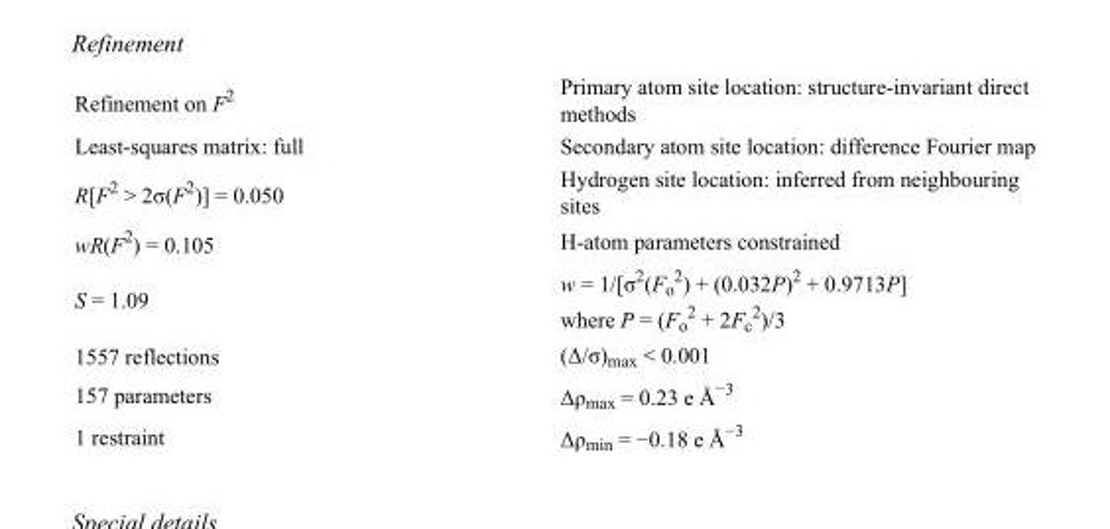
<table><tbody><tr><td>Refinement on F<sup>2</sup></td><td>Primary atom site location: structure-invariant direct methods</td></tr><tr><td>Least-squares matrix: full</td><td>Secondary atom site location: difference Fourier map</td></tr><tr><td>R[F<sup>2</sup> &gt; 2σ(F<sup>2</sup>)] = 0.050</td><td>Hydrogen site location: inferred from neighbouring sites</td></tr><tr><td>wR(F<sup>2</sup>) = 0.105</td><td>H-atom parameters constrained</td></tr><tr><td>S = 1.09</td><td>w = 1/[σ<sup>2</sup>(F<sub>o</sub> <sup>2</sup>) + (0.032P)<sup>2</sup> + 0.9713P] where P = (F<sub>o</sub> <sup>2</sup> + 2F<sub>c</sub> <sup>2</sup>)/3</td></tr><tr><td>1557 reflections</td><td>(Δ/σ)<sub>max</sub> &lt; 0.001</td></tr><tr><td>157 parameters</td><td>Δρ<sub>max</sub> = 0.23 e Å<sup>−3</sup></td></tr><tr><td>1 restraint</td><td>Δρ<sub>min</sub> = −0.18 e Å<sup>−3</sup></td></tr></tbody></table>